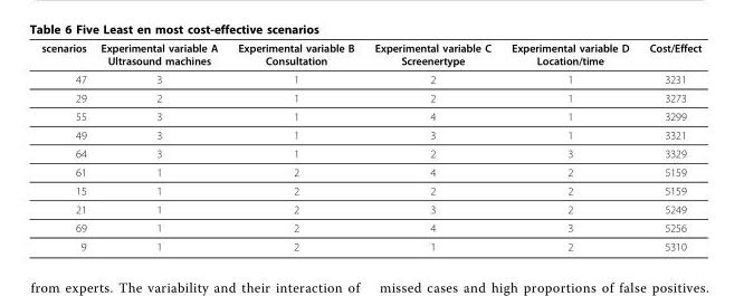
<table><thead><tr><td>scenarios</td><td>Experimental variable A Ultrasound machines</td><td>Experimental variable B Consultation</td><td>Experimental variable C Screenertype</td><td>Experimental variable D Location/time</td><td>Cost/Effect</td></tr></thead><tbody><tr><td>47</td><td>3</td><td>1</td><td>2</td><td>1</td><td>3231</td></tr><tr><td>29</td><td>2</td><td>1</td><td>2</td><td>1</td><td>3273</td></tr><tr><td>55</td><td>3</td><td>1</td><td>4</td><td>1</td><td>3299</td></tr><tr><td>49</td><td>3</td><td>1</td><td>3</td><td>1</td><td>3321</td></tr><tr><td>64</td><td>3</td><td>1</td><td>2</td><td>3</td><td>3329</td></tr><tr><td>61</td><td>1</td><td>2</td><td>4</td><td>2</td><td>5159</td></tr><tr><td>15</td><td>1</td><td>2</td><td>2</td><td>2</td><td>5159</td></tr><tr><td>21</td><td>1</td><td>2</td><td>3</td><td>2</td><td>5249</td></tr><tr><td>69</td><td>1</td><td>2</td><td>4</td><td>3</td><td>5256</td></tr><tr><td>9</td><td>1</td><td>2</td><td>1</td><td>2</td><td>5310</td></tr></tbody></table>